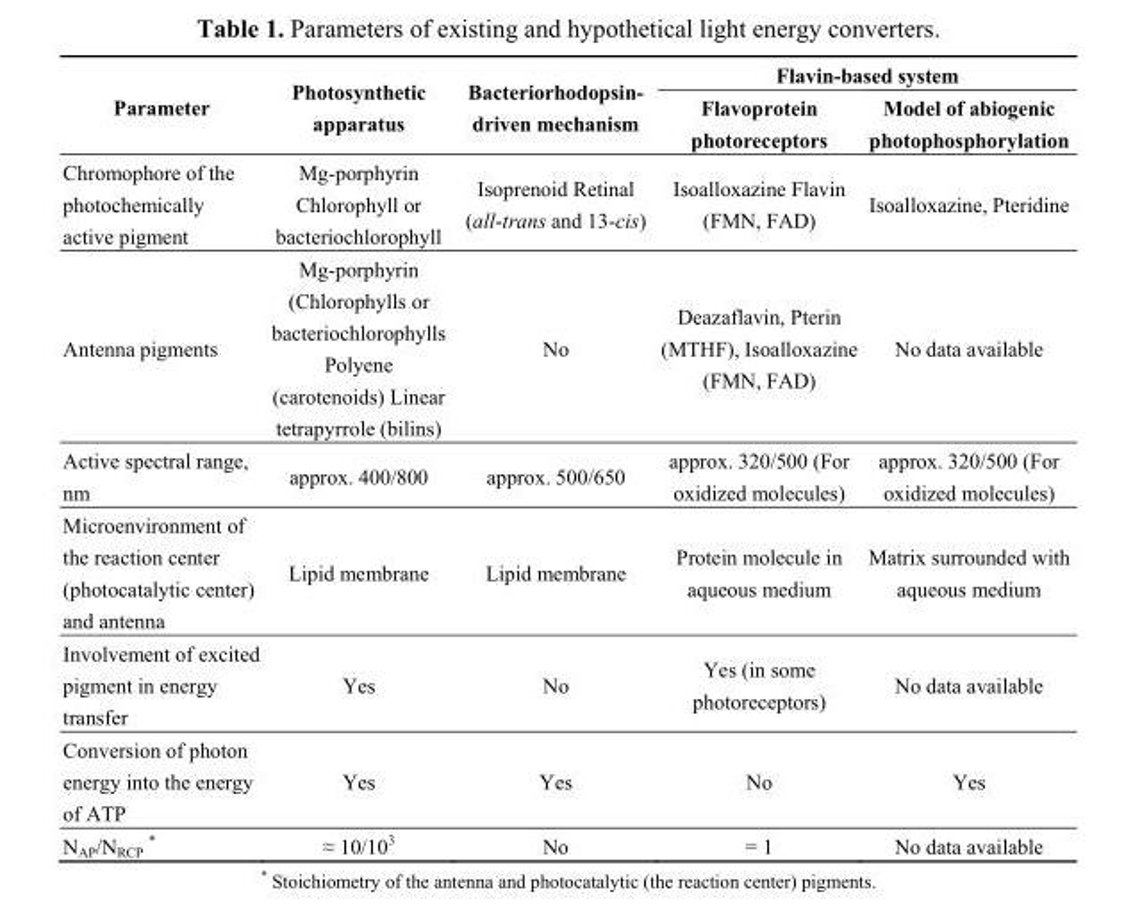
<table><thead><tr><td rowspan="2">Parameter</td><td rowspan="2">Photosynthetic apparatus</td><td rowspan="2">Bacteriorhodopsin- driven mechanism</td><td colspan="2">Flavin-based system</td></tr><tr><td>Flavoprotein photoreceptors</td><td>Model of abiogenic photophosphorylation</td></tr></thead><tbody><tr><td>Chromophore of the photochemically active pigment</td><td>Mg-porphyrin Chlorophyll or bacteriochlorophyll</td><td>Isoprenoid Retinal (all-trans and 13-cis)</td><td>Isoalloxazine Flavin (FMN, FAD)</td><td>Isoalloxazine, Pteridine</td></tr><tr><td>Antenna pigments</td><td>Mg-porphyrin (Chlorophylls or bacteriochlorophylls Polyene (carotenoids) Linear tetrapyrrole (bilins)</td><td>No</td><td>Deazaflavin, Pterin (MTHF), Isoalloxazine (FMN, FAD)</td><td>No data available</td></tr><tr><td>Active spectral range, nm</td><td>approx. 400/800</td><td>approx. 500/650</td><td>approx. 320/500 (For oxidized molecules)</td><td>approx. 320/500 (For oxidized molecules)</td></tr><tr><td>Microenvironment of the reaction center (photocatalytic center) and antenna</td><td>Lipid membrane</td><td>Lipid membrane</td><td>Protein molecule in aqueous medium</td><td>Matrix surrounded with aqueous medium</td></tr><tr><td>Involvement of excited pigment in energy transfer</td><td>Yes</td><td>No</td><td>Yes (in some photoreceptors)</td><td>No data available</td></tr><tr><td>Conversion of photon energy into the energy of ATP</td><td>Yes</td><td>Yes</td><td>No</td><td>Yes</td></tr><tr><td>N<sub>AP</sub>/N<sub>RCP</sub> *</td><td>≈ 10/10<sup>3</sup></td><td>No</td><td>= 1</td><td>No data available</td></tr></tbody></table>